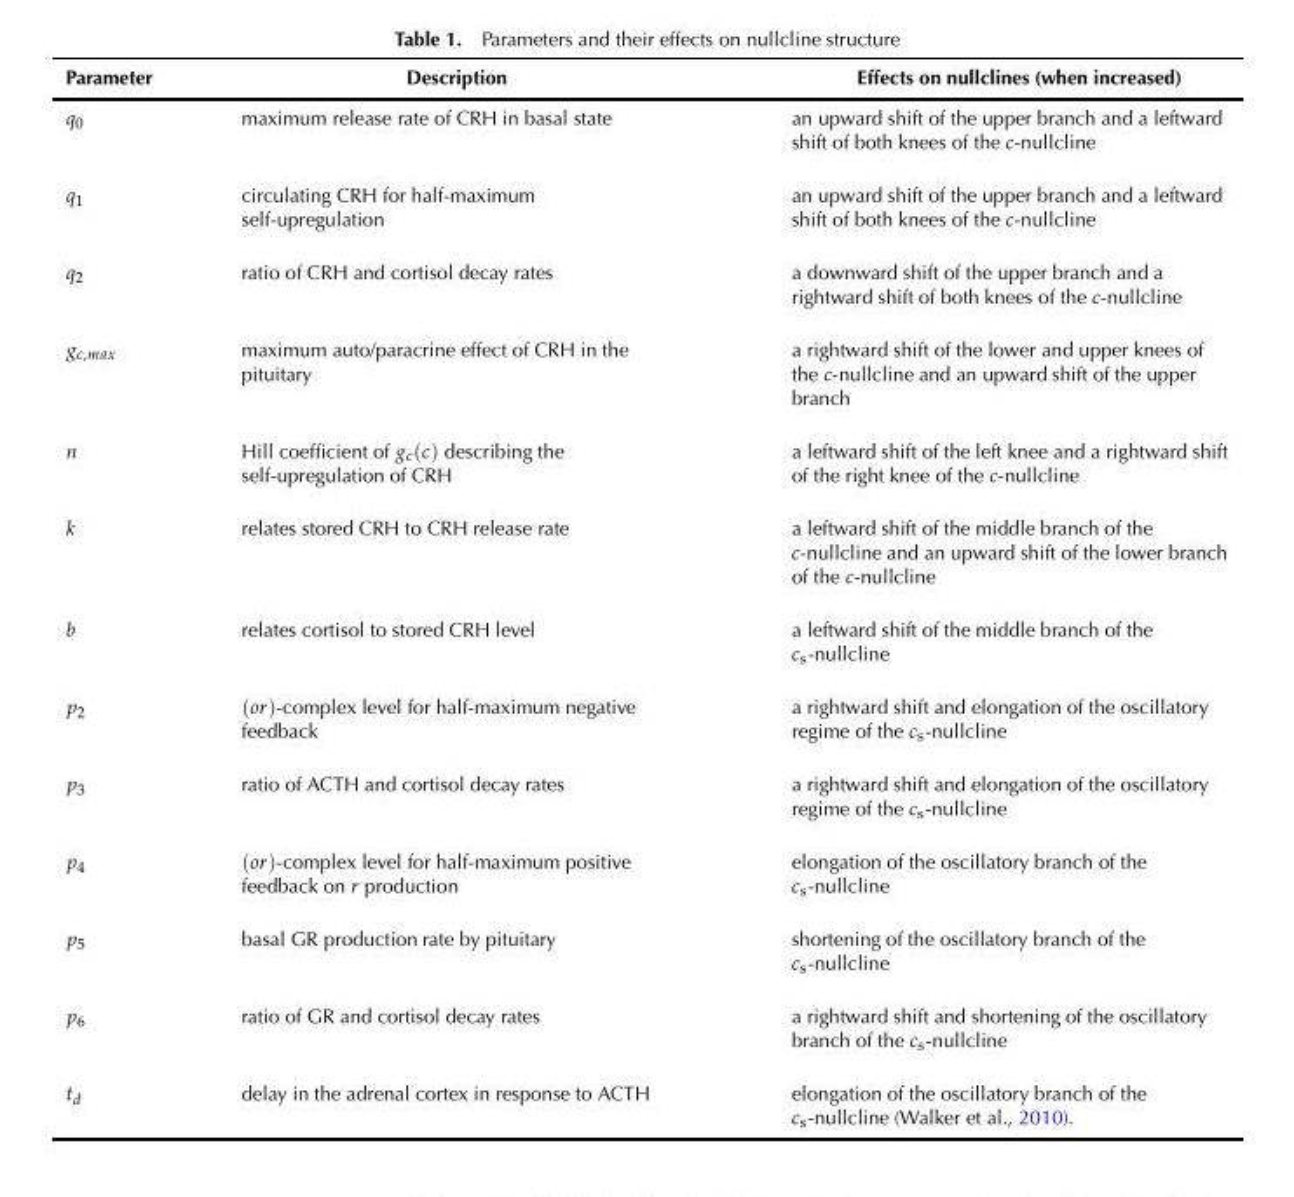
<table><thead><tr><td>Parameter</td><td>Description</td><td>Effects on nullclines (when increased)</td></tr></thead><tbody><tr><td>q<sub>0</sub></td><td>maximum release rate of CRH in basal state</td><td>an upward shift of the upper branch and a leftward shift of both knees of the c-nullcline</td></tr><tr><td>q<sub>1</sub></td><td>circulating CRH for half-maximum self-upregulation</td><td>an upward shift of the upper branch and a leftward shift of both knees of the c-nullcline</td></tr><tr><td>q<sub>2</sub></td><td>ratio of CRH and cortisol decay rates</td><td>a downward shift of the upper branch and a rightward shift of both knees of the c-nullcline</td></tr><tr><td>g<sub>c,max</sub></td><td>maximum auto/paracrine effect of CRH in the pituitary</td><td>a rightward shift of the lower and upper knees of the c-nullcline and an upward shift of the upper branch</td></tr><tr><td>n</td><td>Hill coefficient of g<sub>c</sub>(c) describing the self-upregulation of CRH</td><td>a leftward shift of the left knee and a rightward shift of the right knee of the c-nullcline</td></tr><tr><td>k</td><td>relates stored CRH to CRH release rate</td><td>a leftward shift of the middle branch of the c-nullcline and an upward shift of the lower branch of the c-nullcline</td></tr><tr><td>b</td><td>relates cortisol to stored CRH level</td><td>a leftward shift of the middle branch of the cs-nullcline</td></tr><tr><td>p<sub>2</sub></td><td>(or)-complex level for half-maximum negative feedback</td><td>a rightward shift and elongation of the oscillatory regime of the cs-nullcline</td></tr><tr><td>p<sub>3</sub></td><td>ratio of ACTH and cortisol decay rates</td><td>a rightward shift and elongation of the oscillatory regime of the cs-nullcline</td></tr><tr><td>p<sub>4</sub></td><td>(or)-complex level for half-maximum positive feedback on r production</td><td>elongation of the oscillatory branch of the cs-nullcline</td></tr><tr><td>p<sub>5</sub></td><td>basal GR production rate by pituitary</td><td>shortening of the oscillatory branch of the cs-nullcline</td></tr><tr><td>p<sub>6</sub></td><td>ratio of GR and cortisol decay rates</td><td>a rightward shift and shortening of the oscillatory branch of the cs-nullcline</td></tr><tr><td>td</td><td>delay in the adrenal cortex in response to ACTH</td><td>elongation of the oscillatory branch of the cs-nullcline (Walker et al., 2010).</td></tr></tbody></table>